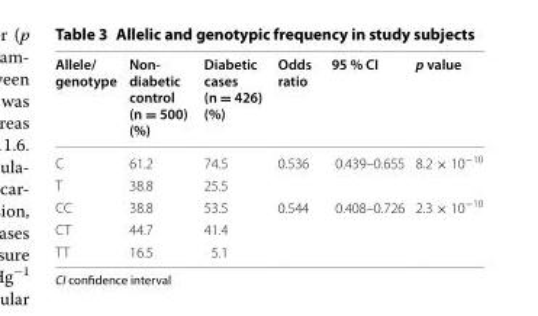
<table><thead><tr><td>Allele/ genotype</td><td>Non- diabetic control (n = 500) (%)</td><td>Diabetic cases (n = 426) (%)</td><td>Odds ratio</td><td>95 % CI</td><td>p value</td></tr></thead><tbody><tr><td>C</td><td>61.2</td><td>74.5</td><td rowspan="2">0.536</td><td rowspan="2">0.439–0.655</td><td rowspan="2">8.2 × 10<sup>−10</sup></td></tr><tr><td>T</td><td>38.8</td><td>25.5</td></tr><tr><td>CC</td><td>38.8</td><td>53.5</td><td rowspan="3">0.544</td><td rowspan="3">0.408–0.726</td><td rowspan="3">2.3 × 10<sup>−10</sup></td></tr><tr><td>CT</td><td>44.7</td><td>41.4</td></tr><tr><td>TT</td><td>16.5</td><td>5.1</td></tr></tbody></table>